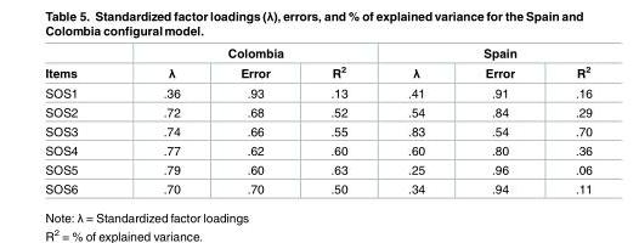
<table><thead><tr><td rowspan="2">Items</td><td colspan="3">Colombia</td><td colspan="3">Spain</td></tr><tr><td>λ</td><td>Error</td><td>R<sup>2</sup></td><td>λ</td><td>Error</td><td>R<sup>2</sup></td></tr></thead><tbody><tr><td>SOS1</td><td>.36</td><td>.93</td><td>.13</td><td>.41</td><td>.91</td><td>.16</td></tr><tr><td>SOS2</td><td>.72</td><td>.68</td><td>.52</td><td>.54</td><td>.84</td><td>.29</td></tr><tr><td>SOS3</td><td>.74</td><td>.66</td><td>.55</td><td>.83</td><td>.54</td><td>.70</td></tr><tr><td>SOS4</td><td>.77</td><td>.62</td><td>.60</td><td>.60</td><td>.80</td><td>.36</td></tr><tr><td>SOS5</td><td>.79</td><td>.60</td><td>.63</td><td>.25</td><td>.96</td><td>.06</td></tr><tr><td>SOS6</td><td>.70</td><td>.70</td><td>.50</td><td>.34</td><td>.94</td><td>.11</td></tr></tbody></table>